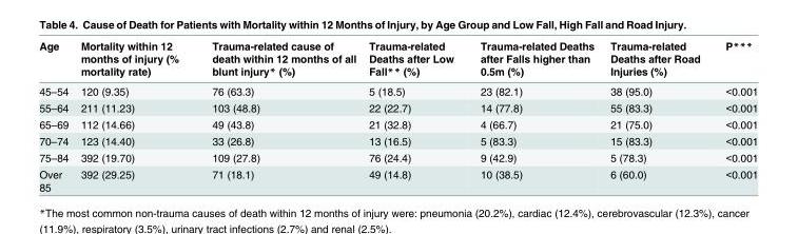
<table><thead><tr><td>Age</td><td>Mortality within 12 months of injury (% mortality rate)</td><td>Trauma-related cause of death within 12 months of all blunt injury* (%)</td><td>Trauma-related Deaths after Low Fall** (%)</td><td>Trauma-related Deaths after Falls higher than 0.5m (%)</td><td>Trauma-related Deaths after Road Injuries (%)</td><td>P***</td></tr></thead><tbody><tr><td>45–54</td><td>120 (9.35)</td><td>76 (63.3)</td><td>5 (18.5)</td><td>23 (82.1)</td><td>38 (95.0)</td><td>&lt;0.001</td></tr><tr><td>55–64</td><td>211 (11.23)</td><td>103 (48.8)</td><td>22 (22.7)</td><td>14 (77.8)</td><td>55 (83.3)</td><td>&lt;0.001</td></tr><tr><td>65–69</td><td>112 (14.66)</td><td>49 (43.8)</td><td>21 (32.8)</td><td>4 (66.7)</td><td>21 (75.0)</td><td>&lt;0.001</td></tr><tr><td>70–74</td><td>123 (14.40)</td><td>33 (26.8)</td><td>13 (16.5)</td><td>5 (83.3)</td><td>15 (83.3)</td><td>&lt;0.001</td></tr><tr><td>75–84</td><td>392 (19.70)</td><td>109 (27.8)</td><td>76 (24.4)</td><td>9 (42.9)</td><td>5 (78.3)</td><td>&lt;0.001</td></tr><tr><td>Over 85</td><td>392 (29.25)</td><td>71 (18.1)</td><td>49 (14.8)</td><td>10 (38.5)</td><td>6 (60.0)</td><td>&lt;0.001</td></tr></tbody></table>